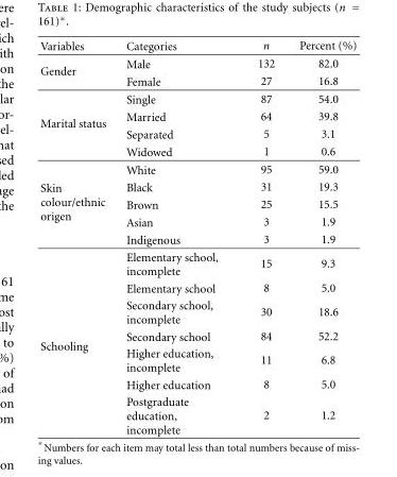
<table><thead><tr><td>Variables</td><td>Categories</td><td>n</td><td>Percent (%)</td></tr></thead><tbody><tr><td rowspan="2">Gender</td><td>Male</td><td>132</td><td>82.0</td></tr><tr><td>Female</td><td>27</td><td>16.8</td></tr><tr><td rowspan="4">Marital status</td><td>Single</td><td>87</td><td>54.0</td></tr><tr><td>Married</td><td>64</td><td>39.8</td></tr><tr><td>Separated</td><td>5</td><td>3.1</td></tr><tr><td>Widowed</td><td>1</td><td>0.6</td></tr><tr><td rowspan="5">Skin colour/ethnic origen</td><td>White</td><td>95</td><td>59.0</td></tr><tr><td>Black</td><td>31</td><td>19.3</td></tr><tr><td>Brown</td><td>25</td><td>15.5</td></tr><tr><td>Asian</td><td>3</td><td>1.9</td></tr><tr><td>Indigenous</td><td>3</td><td>1.9</td></tr><tr><td rowspan="7">Schooling</td><td>Elementary school, incomplete</td><td>15</td><td>9.3</td></tr><tr><td>Elementary school</td><td>8</td><td>5.0</td></tr><tr><td>Secondary school, incomplete</td><td>30</td><td>18.6</td></tr><tr><td>Secondary school</td><td>84</td><td>52.2</td></tr><tr><td>Higher education, incomplete</td><td>11</td><td>6.8</td></tr><tr><td>Higher education</td><td>8</td><td>5.0</td></tr><tr><td>Postgraduate education, incomplete</td><td>2</td><td>1.2</td></tr></tbody></table>